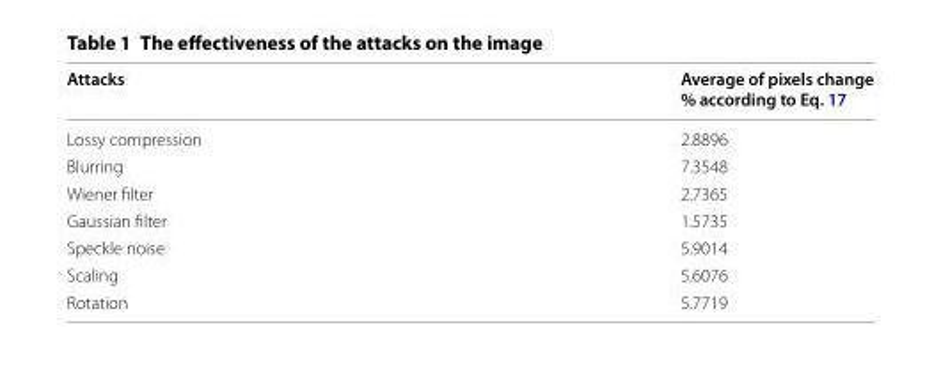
<table><thead><tr><td>Attacks</td><td>Average of pixels change % according to Eq. 17</td></tr></thead><tbody><tr><td>Lossy compression</td><td>2.8896</td></tr><tr><td>Blurring</td><td>7.3548</td></tr><tr><td>Wiener filter</td><td>2.7365</td></tr><tr><td>Gaussian filter</td><td>1.5735</td></tr><tr><td>Speckle noise</td><td>5.9014</td></tr><tr><td>Scaling</td><td>5.6076</td></tr><tr><td>Rotation</td><td>5.7719</td></tr></tbody></table>